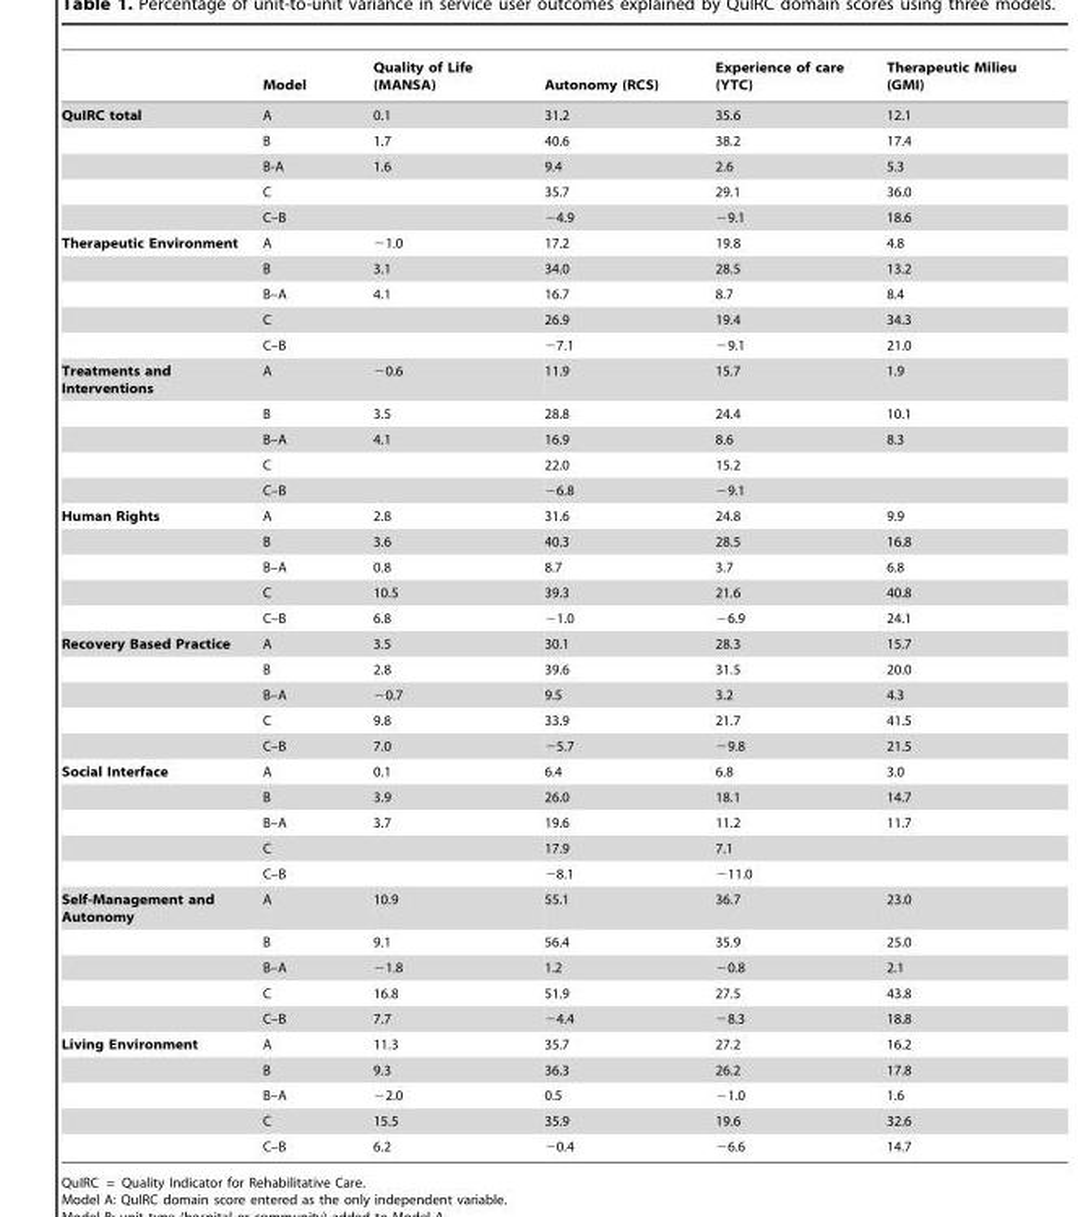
<table><thead><tr><td></td><td>Model</td><td>Quality of Life (MANSA)</td><td>Autonomy (RCS)</td><td>Experience of care (YTC)</td><td>Therapeutic Milieu (GMI)</td></tr></thead><tbody><tr><td rowspan="5">QuIRC total</td><td>A</td><td>0.1</td><td>31.2</td><td>35.6</td><td>12.1</td></tr><tr><td>B</td><td>1.7</td><td>40.6</td><td>38.2</td><td>17.4</td></tr><tr><td>B-A</td><td>1.6</td><td>9.4</td><td>2.6</td><td>5.3</td></tr><tr><td>C</td><td></td><td>35.7</td><td>29.1</td><td>36.0</td></tr><tr><td>C–B</td><td></td><td>−4.9</td><td>−9.1</td><td>18.6</td></tr><tr><td rowspan="5">Therapeutic Environment</td><td>A</td><td>−1.0</td><td>17.2</td><td>19.8</td><td>4.8</td></tr><tr><td>B</td><td>3.1</td><td>34.0</td><td>28.5</td><td>13.2</td></tr><tr><td>B–A</td><td>4.1</td><td>16.7</td><td>8.7</td><td>8.4</td></tr><tr><td>C</td><td></td><td>26.9</td><td>19.4</td><td>34.3</td></tr><tr><td>C–B</td><td></td><td>−7.1</td><td>−9.1</td><td>21.0</td></tr><tr><td rowspan="5">Treatments and Interventions</td><td>A</td><td>−0.6</td><td>11.9</td><td>15.7</td><td>1.9</td></tr><tr><td>B</td><td>3.5</td><td>28.8</td><td>24.4</td><td>10.1</td></tr><tr><td>B–A</td><td>4.1</td><td>16.9</td><td>8.6</td><td>8.3</td></tr><tr><td>C</td><td></td><td>22.0</td><td>15.2</td><td></td></tr><tr><td>C–B</td><td></td><td>−6.8</td><td>−9.1</td><td></td></tr><tr><td rowspan="5">Human Rights</td><td>A</td><td>2.8</td><td>31.6</td><td>24.8</td><td>9.9</td></tr><tr><td>B</td><td>3.6</td><td>40.3</td><td>28.5</td><td>16.8</td></tr><tr><td>B–A</td><td>0.8</td><td>8.7</td><td>3.7</td><td>6.8</td></tr><tr><td>C</td><td>10.5</td><td>39.3</td><td>21.6</td><td>40.8</td></tr><tr><td>C–B</td><td>6.8</td><td>−1.0</td><td>−6.9</td><td>24.1</td></tr><tr><td rowspan="5">Recovery Based Practice</td><td>A</td><td>3.5</td><td>30.1</td><td>28.3</td><td>15.7</td></tr><tr><td>B</td><td>2.8</td><td>39.6</td><td>31.5</td><td>20.0</td></tr><tr><td>B–A</td><td>−0.7</td><td>9.5</td><td>3.2</td><td>4.3</td></tr><tr><td>C</td><td>9.8</td><td>33.9</td><td>21.7</td><td>41.5</td></tr><tr><td>C–B</td><td>7.0</td><td>−5.7</td><td>−9.8</td><td>21.5</td></tr><tr><td rowspan="5">Social Interface</td><td>A</td><td>0.1</td><td>6.4</td><td>6.8</td><td>3.0</td></tr><tr><td>B</td><td>3.9</td><td>26.0</td><td>18.1</td><td>14.7</td></tr><tr><td>B–A</td><td>3.7</td><td>19.6</td><td>11.2</td><td>11.7</td></tr><tr><td>C</td><td></td><td>17.9</td><td>7.1</td><td></td></tr><tr><td>C–B</td><td></td><td>−8.1</td><td>−11.0</td><td></td></tr><tr><td rowspan="5">Self-Management and Autonomy</td><td>A</td><td>10.9</td><td>55.1</td><td>36.7</td><td>23.0</td></tr><tr><td>B</td><td>9.1</td><td>56.4</td><td>35.9</td><td>25.0</td></tr><tr><td>B–A</td><td>−1.8</td><td>1.2</td><td>−0.8</td><td>2.1</td></tr><tr><td>C</td><td>16.8</td><td>51.9</td><td>27.5</td><td>43.8</td></tr><tr><td>C–B</td><td>7.7</td><td>−4.4</td><td>−8.3</td><td>18.8</td></tr><tr><td rowspan="5">Living Environment</td><td>A</td><td>11.3</td><td>35.7</td><td>27.2</td><td>16.2</td></tr><tr><td>B</td><td>9.3</td><td>36.3</td><td>26.2</td><td>17.8</td></tr><tr><td>B–A</td><td>−2.0</td><td>0.5</td><td>−1.0</td><td>1.6</td></tr><tr><td>C</td><td>15.5</td><td>35.9</td><td>19.6</td><td>32.6</td></tr><tr><td>C–B</td><td>6.2</td><td>−0.4</td><td>−6.6</td><td>14.7</td></tr></tbody></table>